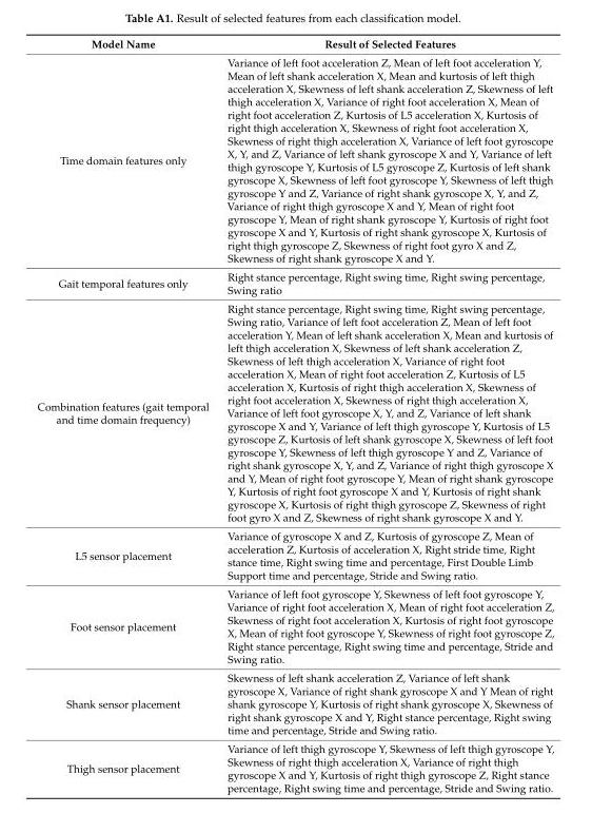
<table><thead><tr><td>Model Name</td><td>Result of Selected Features</td></tr></thead><tbody><tr><td>Time domain features only</td><td>Variance of left foot acceleration Z, Mean of left foot acceleration Y, Mean of left shank acceleration X, Mean and kurtosis of left thigh acceleration X, Skewness of left shank acceleration Z, Skewness of left thigh acceleration X, Variance of right foot acceleration X, Mean of right foot acceleration Z, Kurtosis of L5 acceleration X, Kurtosis of right thigh acceleration X, Skewness of right foot acceleration X, Skewness of right thigh acceleration X, Variance of left foot gyroscope X, Y, and Z, Variance of left shank gyroscope X and Y, Variance of left thigh gyroscope Y, Kurtosis of L5 gyroscope Z, Kurtosis of left shank gyroscope X, Skewness of left foot gyroscope Y, Skewness of left thigh gyroscope Y and Z, Variance of right shank gyroscope X, Y, and Z, Variance of right thigh gyroscope X and Y, Mean of right foot gyroscope Y, Mean of right shank gyroscope Y, Kurtosis of right foot gyroscope X and Y, Kurtosis of right shank gyroscope X, Kurtosis of right thigh gyroscope Z, Skewness of right foot gyro X and Z, Skewness of right shank gyroscope X and Y.</td></tr><tr><td>Gait temporal features only</td><td>Right stance percentage, Right swing time, Right swing percentage, Swing ratio</td></tr><tr><td>Combination features (gait temporal and time domain frequency)</td><td>Right stance percentage, Right swing time, Right swing percentage, Swing ratio, Variance of left foot acceleration Z, Mean of left foot acceleration Y, Mean of left shank acceleration X, Mean and kurtosis of left thigh acceleration X, Skewness of left shank acceleration Z, Skewness of left thigh acceleration X, Variance of right foot acceleration X, Mean of right foot acceleration Z, Kurtosis of L5 acceleration X, Kurtosis of right thigh acceleration X, Skewness of right foot acceleration X, Skewness of right thigh acceleration X, Variance of left foot gyroscope X, Y, and Z, Variance of left shank gyroscope X and Y, Variance of left thigh gyroscope Y, Kurtosis of L5 gyroscope Z, Kurtosis of left shank gyroscope X, Skewness of left foot gyroscope Y, Skewness of left thigh gyroscope Y and Z, Variance of right shank gyroscope X, Y, and Z, Variance of right thigh gyroscope X and Y, Mean of right foot gyroscope Y, Mean of right shank gyroscope Y, Kurtosis of right foot gyroscope X and Y, Kurtosis of right shank gyroscope X, Kurtosis of right thigh gyroscope Z, Skewness of right foot gyro X and Z, Skewness of right shank gyroscope X and Y.</td></tr><tr><td>L5 sensor placement</td><td>Variance of gyroscope X and Z, Kurtosis of gyroscope Z, Mean of acceleration Z, Kurtosis of acceleration X, Right stride time, Right stance time, Right swing time and percentage, First Double Limb Support time and percentage, Stride and Swing ratio.</td></tr><tr><td>Foot sensor placement</td><td>Variance of left foot gyroscope Y, Skewness of left foot gyroscope Y, Variance of right foot acceleration X, Mean of right foot acceleration Z, Skewness of right foot acceleration X, Kurtosis of right foot gyroscope X, Mean of right foot gyroscope Y, Skewness of right foot gyroscope Z, Right stance percentage, Right swing time and percentage, Stride and Swing ratio.</td></tr><tr><td>Shank sensor placement</td><td>Skewness of left shank acceleration Z, Variance of left shank gyroscope X, Variance of right shank gyroscope X and Y Mean of right shank gyroscope Y, Kurtosis of right shank gyroscope X, Skewness of right shank gyroscope X and Y, Right stance percentage, Right swing time and percentage, Stride and Swing ratio.</td></tr><tr><td>Thigh sensor placement</td><td>Variance of left thigh gyroscope Y, Skewness of left thigh gyroscope Y, Skewness of right thigh acceleration X, Variance of right thigh gyroscope X and Y, Kurtosis of right thigh gyroscope Z, Right stance percentage, Right swing time and percentage, Stride and Swing ratio.</td></tr></tbody></table>